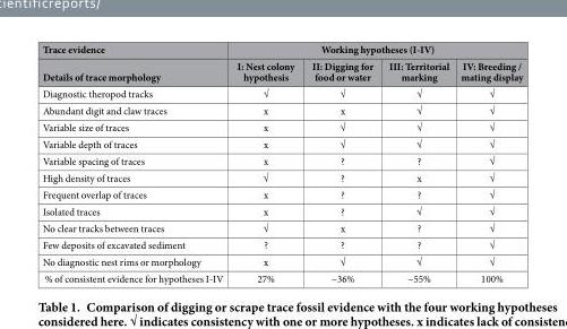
<table><thead><tr><td rowspan="2">Trace evidence Details of trace morphology</td><td colspan="4">Working hypotheses (I-IV)</td></tr><tr><td>I: Nest colony hypothesis</td><td>II: Digging for food or water</td><td>III: Territorial marking</td><td>IV: Breeding / mating display</td></tr></thead><tbody><tr><td>Diagnostic theropod tracks</td><td>√</td><td>√</td><td>√</td><td>√</td></tr><tr><td>Abundant digit and claw traces</td><td>x</td><td>x</td><td>√</td><td>√</td></tr><tr><td>Variable size of traces</td><td>x</td><td>√</td><td>√</td><td>√</td></tr><tr><td>Variable depth of traces</td><td>x</td><td>√</td><td>√</td><td>√</td></tr><tr><td>Variable spacing of traces</td><td>x</td><td>?</td><td>?</td><td>√</td></tr><tr><td>High density of traces</td><td>√</td><td>?</td><td>x</td><td>√</td></tr><tr><td>Frequent overlap of traces</td><td>x</td><td>?</td><td>?</td><td>√</td></tr><tr><td>Isolated traces</td><td>x</td><td>?</td><td>√</td><td>√</td></tr><tr><td>No clear tracks between traces</td><td>√</td><td>x</td><td>?</td><td>√</td></tr><tr><td>Few deposits of excavated sediment</td><td>?</td><td>?</td><td>?</td><td>√</td></tr><tr><td>No diagnostic nest rims or morphology</td><td>x</td><td>√</td><td>√</td><td>√</td></tr><tr><td>% of consistent evidence for hypotheses I-IV</td><td>27%</td><td>~36%</td><td>~55%</td><td>100%</td></tr></tbody></table>